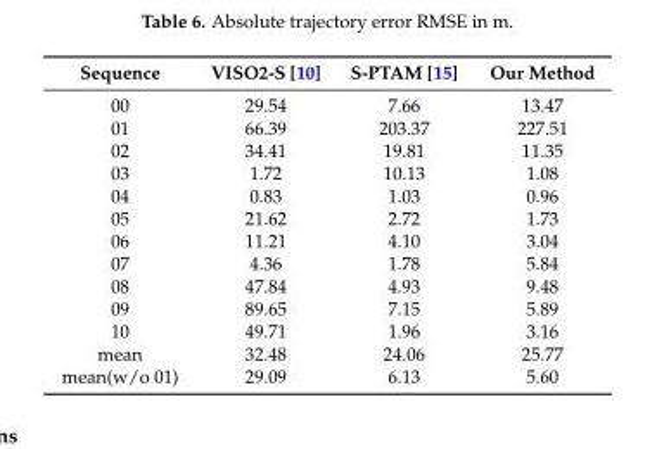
<table><thead><tr><td>Sequence</td><td>VISO2-S [10]</td><td>S-PTAM [15]</td><td>Our Method</td></tr></thead><tbody><tr><td>00</td><td>29.54</td><td>7.66</td><td>13.47</td></tr><tr><td>01</td><td>66.39</td><td>203.37</td><td>227.51</td></tr><tr><td>02</td><td>34.41</td><td>19.81</td><td>11.35</td></tr><tr><td>03</td><td>1.72</td><td>10.13</td><td>1.08</td></tr><tr><td>04</td><td>0.83</td><td>1.03</td><td>0.96</td></tr><tr><td>05</td><td>21.62</td><td>2.72</td><td>1.73</td></tr><tr><td>06</td><td>11.21</td><td>4.10</td><td>3.04</td></tr><tr><td>07</td><td>4.36</td><td>1.78</td><td>5.84</td></tr><tr><td>08</td><td>47.84</td><td>4.93</td><td>9.48</td></tr><tr><td>09</td><td>89.65</td><td>7.15</td><td>5.89</td></tr><tr><td>10</td><td>49.71</td><td>1.96</td><td>3.16</td></tr><tr><td>mean</td><td>32.48</td><td>24.06</td><td>25.77</td></tr><tr><td>mean(w/o 01)</td><td>29.09</td><td>6.13</td><td>5.60</td></tr></tbody></table>